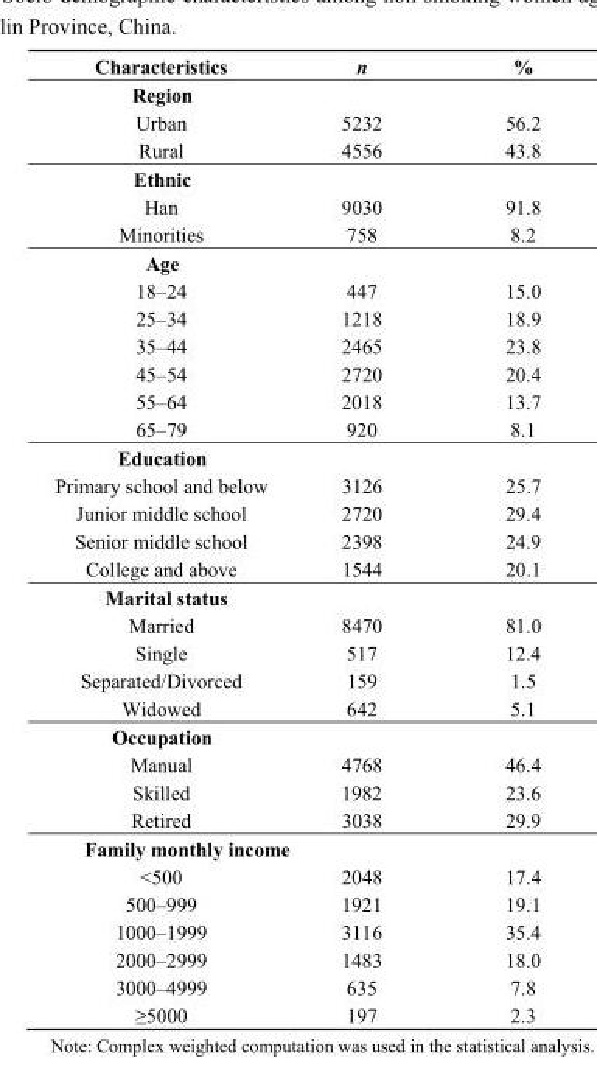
<table><thead><tr><td>Characteristics</td><td>n</td><td>%</td></tr></thead><tbody><tr><td colspan="3">Region</td></tr><tr><td>Urban</td><td>5232</td><td>56.2</td></tr><tr><td>Rural</td><td>4556</td><td>43.8</td></tr><tr><td colspan="3">Ethnic</td></tr><tr><td>Han</td><td>9030</td><td>91.8</td></tr><tr><td>Minorities</td><td>758</td><td>8.2</td></tr><tr><td colspan="3">Age</td></tr><tr><td>18–24</td><td>447</td><td>15.0</td></tr><tr><td>25–34</td><td>1218</td><td>18.9</td></tr><tr><td>35–44</td><td>2465</td><td>23.8</td></tr><tr><td>45–54</td><td>2720</td><td>20.4</td></tr><tr><td>55–64</td><td>2018</td><td>13.7</td></tr><tr><td>65–79</td><td>920</td><td>8.1</td></tr><tr><td colspan="3">Education</td></tr><tr><td>Primary school and below</td><td>3126</td><td>25.7</td></tr><tr><td>Junior middle school</td><td>2720</td><td>29.4</td></tr><tr><td>Senior middle school</td><td>2398</td><td>24.9</td></tr><tr><td>College and above</td><td>1544</td><td>20.1</td></tr><tr><td colspan="3">Marital status</td></tr><tr><td>Married</td><td>8470</td><td>81.0</td></tr><tr><td>Single</td><td>517</td><td>12.4</td></tr><tr><td>Separated/Divorced</td><td>159</td><td>1.5</td></tr><tr><td>Widowed</td><td>642</td><td>5.1</td></tr><tr><td colspan="3">Occupation</td></tr><tr><td>Manual</td><td>4768</td><td>46.4</td></tr><tr><td>Skilled</td><td>1982</td><td>23.6</td></tr><tr><td>Retired</td><td>3038</td><td>29.9</td></tr><tr><td colspan="3">Family monthly income</td></tr><tr><td>&lt;500</td><td>2048</td><td>17.4</td></tr><tr><td>500–999</td><td>1921</td><td>19.1</td></tr><tr><td>1000–1999</td><td>3116</td><td>35.4</td></tr><tr><td>2000–2999</td><td>1483</td><td>18.0</td></tr><tr><td>3000–4999</td><td>635</td><td>7.8</td></tr><tr><td>≥5000</td><td>197</td><td>2.3</td></tr></tbody></table>